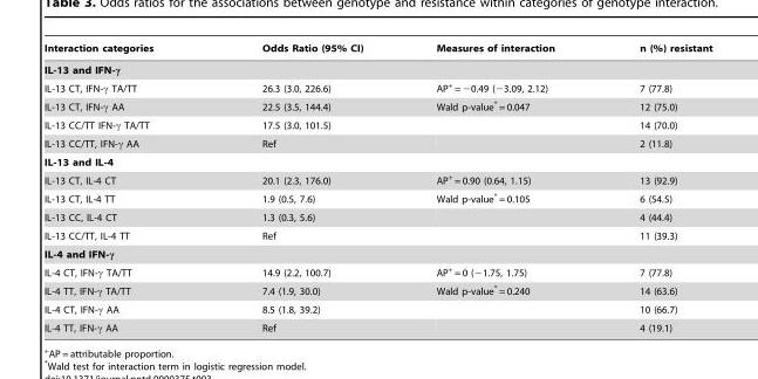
<table><thead><tr><td>Interaction categories</td><td>Odds Ratio (95% CI)</td><td>Measures of interaction</td><td>n (%) resistant</td></tr></thead><tbody><tr><td colspan="4">IL-13 and IFN-γ</td></tr><tr><td>IL-13 CT, IFN-γ TA/TT</td><td>26.3 (3.0, 226.6)</td><td>AP+ = −0.49 (−3.09, 2.12)</td><td>7 (77.8)</td></tr><tr><td>IL-13 CT, IFN-γ AA</td><td>22.5 (3.5, 144.4)</td><td>Wald p-value* = 0.047</td><td>12 (75.0)</td></tr><tr><td>IL-13 CC/TT IFN-γ TA/TT</td><td>17.5 (3.0, 101.5)</td><td></td><td>14 (70.0)</td></tr><tr><td>IL-13 CC/TT, IFN-γ AA</td><td>Ref</td><td></td><td>2 (11.8)</td></tr><tr><td colspan="4">IL-13 and IL-4</td></tr><tr><td>IL-13 CT, IL-4 CT</td><td>20.1 (2.3, 176.0)</td><td>AP+ = 0.90 (0.64, 1.15)</td><td>13 (92.9)</td></tr><tr><td>IL-13 CT, IL-4 TT</td><td>1.9 (0.5, 7.6)</td><td>Wald p-value* = 0.105</td><td>6 (54.5)</td></tr><tr><td>IL-13 CC, IL-4 CT</td><td>1.3 (0.3, 5.6)</td><td></td><td>4 (44.4)</td></tr><tr><td>IL-13 CC/TT, IL-4 TT</td><td>Ref</td><td></td><td>11 (39.3)</td></tr><tr><td colspan="4">IL-4 and IFN-γ</td></tr><tr><td>IL-4 CT, IFN-γ TA/TT</td><td>14.9 (2.2, 100.7)</td><td>AP+ = 0 (−1.75, 1.75)</td><td>7 (77.8)</td></tr><tr><td>IL-4 TT, IFN-γ TA/TT</td><td>7.4 (1.9, 30.0)</td><td>Wald p-value* = 0.240</td><td>14 (63.6)</td></tr><tr><td>IL-4 CT, IFN-γ AA</td><td>8.5 (1.8, 39.2)</td><td></td><td>10 (66.7)</td></tr><tr><td>IL-4 TT, IFN-γ AA</td><td>Ref</td><td></td><td>4 (19.1)</td></tr></tbody></table>